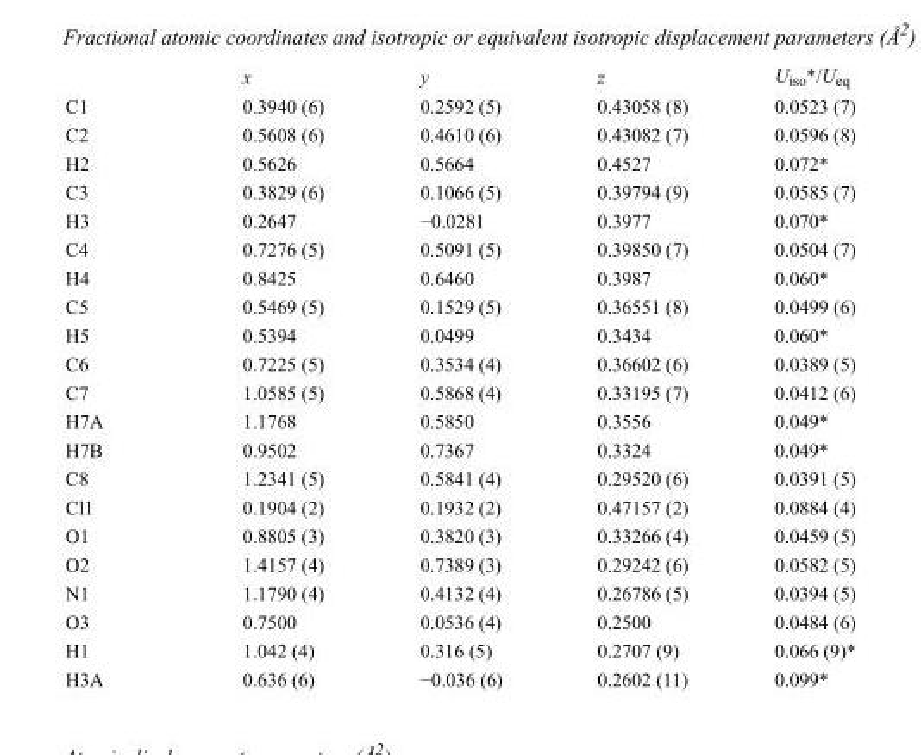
<table><thead><tr><td></td><td>x</td><td>y</td><td>z</td><td>U<sub>iso</sub>*/U<sub>eq</sub></td></tr></thead><tbody><tr><td>C1</td><td>0.3940 (6)</td><td>0.2592 (5)</td><td>0.43058 (8)</td><td>0.0523 (7)</td></tr><tr><td>C2</td><td>0.5608 (6)</td><td>0.4610 (6)</td><td>0.43082 (7)</td><td>0.0596 (8)</td></tr><tr><td>H2</td><td>0.5626</td><td>0.5664</td><td>0.4527</td><td>0.072*</td></tr><tr><td>C3</td><td>0.3829 (6)</td><td>0.1066 (5)</td><td>0.39794 (9)</td><td>0.0585 (7)</td></tr><tr><td>H3</td><td>0.2647</td><td>−0.0281</td><td>0.3977</td><td>0.070*</td></tr><tr><td>C4</td><td>0.7276 (5)</td><td>0.5091 (5)</td><td>0.39850 (7)</td><td>0.0504 (7)</td></tr><tr><td>H4</td><td>0.8425</td><td>0.6460</td><td>0.3987</td><td>0.060*</td></tr><tr><td>C5</td><td>0.5469 (5)</td><td>0.1529 (5)</td><td>0.36551 (8)</td><td>0.0499 (6)</td></tr><tr><td>H5</td><td>0.5394</td><td>0.0499</td><td>0.3434</td><td>0.060*</td></tr><tr><td>C6</td><td>0.7225 (5)</td><td>0.3534 (4)</td><td>0.36602 (6)</td><td>0.0389 (5)</td></tr><tr><td>C7</td><td>1.0585 (5)</td><td>0.5868 (4)</td><td>0.33195 (7)</td><td>0.0412 (6)</td></tr><tr><td>H7A</td><td>1.1768</td><td>0.5850</td><td>0.3556</td><td>0.049*</td></tr><tr><td>H7B</td><td>0.9502</td><td>0.7367</td><td>0.3324</td><td>0.049*</td></tr><tr><td>C8</td><td>1.2341 (5)</td><td>0.5841 (4)</td><td>0.29520 (6)</td><td>0.0391 (5)</td></tr><tr><td>Cl1</td><td>0.1904 (2)</td><td>0.1932 (2)</td><td>0.47157 (2)</td><td>0.0884 (4)</td></tr><tr><td>O1</td><td>0.8805 (3)</td><td>0.3820 (3)</td><td>0.33266 (4)</td><td>0.0459 (5)</td></tr><tr><td>O2</td><td>1.4157 (4)</td><td>0.7389 (3)</td><td>0.29242 (6)</td><td>0.0582 (5)</td></tr><tr><td>N1</td><td>1.1790 (4)</td><td>0.4132 (4)</td><td>0.26786 (5)</td><td>0.0394 (5)</td></tr><tr><td>O3</td><td>0.7500</td><td>0.0536 (4)</td><td>0.2500</td><td>0.0484 (6)</td></tr><tr><td>H1</td><td>1.042 (4)</td><td>0.316 (5)</td><td>0.2707 (9)</td><td>0.066 (9)*</td></tr><tr><td>H3A</td><td>0.636 (6)</td><td>−0.036 (6)</td><td>0.2602 (11)</td><td>0.099*</td></tr></tbody></table>